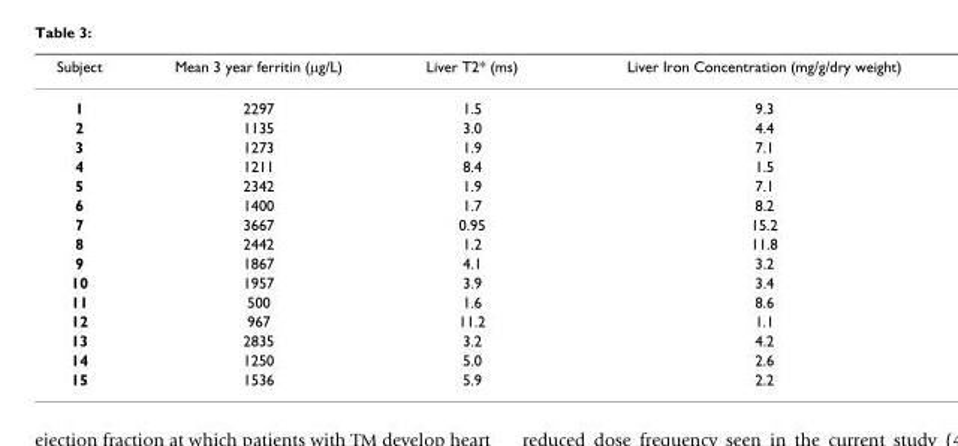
<table><thead><tr><td>Subject</td><td>Mean 3 year ferritin (μg/L)</td><td>Liver T2* (ms)</td><td>Liver Iron Concentration (mg/g/dry weight)</td></tr></thead><tbody><tr><td>1</td><td>2297</td><td>1.5</td><td>9.3</td></tr><tr><td>2</td><td>1135</td><td>3.0</td><td>4.4</td></tr><tr><td>3</td><td>1273</td><td>1.9</td><td>7.1</td></tr><tr><td>4</td><td>1211</td><td>8.4</td><td>1.5</td></tr><tr><td>5</td><td>2342</td><td>1.9</td><td>7.1</td></tr><tr><td>6</td><td>1400</td><td>1.7</td><td>8.2</td></tr><tr><td>7</td><td>3667</td><td>0.95</td><td>15.2</td></tr><tr><td>8</td><td>2442</td><td>1.2</td><td>11.8</td></tr><tr><td>9</td><td>1867</td><td>4.1</td><td>3.2</td></tr><tr><td>10</td><td>1957</td><td>3.9</td><td>3.4</td></tr><tr><td>11</td><td>500</td><td>1.6</td><td>8.6</td></tr><tr><td>12</td><td>967</td><td>11.2</td><td>1.1</td></tr><tr><td>13</td><td>2835</td><td>3.2</td><td>4.2</td></tr><tr><td>14</td><td>1250</td><td>5.0</td><td>2.6</td></tr><tr><td>15</td><td>1536</td><td>5.9</td><td>2.2</td></tr></tbody></table>